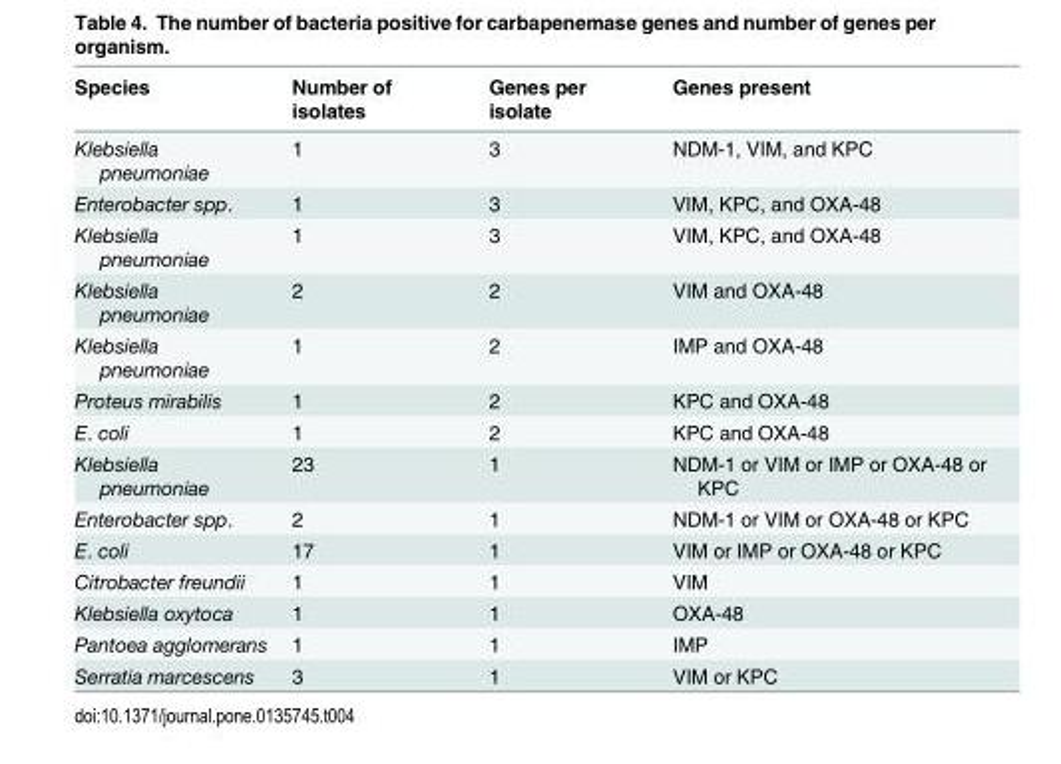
<table><thead><tr><td>Species</td><td>Number of isolates</td><td>Genes per isolate</td><td>Genes present</td></tr></thead><tbody><tr><td>Klebsiella pneumoniae</td><td>1</td><td>3</td><td>NDM-1, VIM, and KPC</td></tr><tr><td>Enterobacter spp.</td><td>1</td><td>3</td><td>VIM, KPC, and OXA-48</td></tr><tr><td>Klebsiella pneumoniae</td><td>1</td><td>3</td><td>VIM, KPC, and OXA-48</td></tr><tr><td>Klebsiella pneumoniae</td><td>2</td><td>2</td><td>VIM and OXA-48</td></tr><tr><td>Klebsiella pneumoniae</td><td>1</td><td>2</td><td>IMP and OXA-48</td></tr><tr><td>Proteus mirabilis</td><td>1</td><td>2</td><td>KPC and OXA-48</td></tr><tr><td>E. coli</td><td>1</td><td>2</td><td>KPC and OXA-48</td></tr><tr><td>Klebsiella pneumoniae</td><td>23</td><td>1</td><td>NDM-1 or VIM or IMP or OXA-48 or KPC</td></tr><tr><td>Enterobacter spp.</td><td>2</td><td>1</td><td>NDM-1 or VIM or OXA-48 or KPC</td></tr><tr><td>E. coli</td><td>17</td><td>1</td><td>VIM or IMP or OXA-48 or KPC</td></tr><tr><td>Citrobacter freundii</td><td>1</td><td>1</td><td>VIM</td></tr><tr><td>Klebsiella oxytoca</td><td>1</td><td>1</td><td>OXA-48</td></tr><tr><td>Pantoea agglomerans</td><td>1</td><td>1</td><td>IMP</td></tr><tr><td>Serratia marcescens</td><td>3</td><td>1</td><td>VIM or KPC</td></tr></tbody></table>